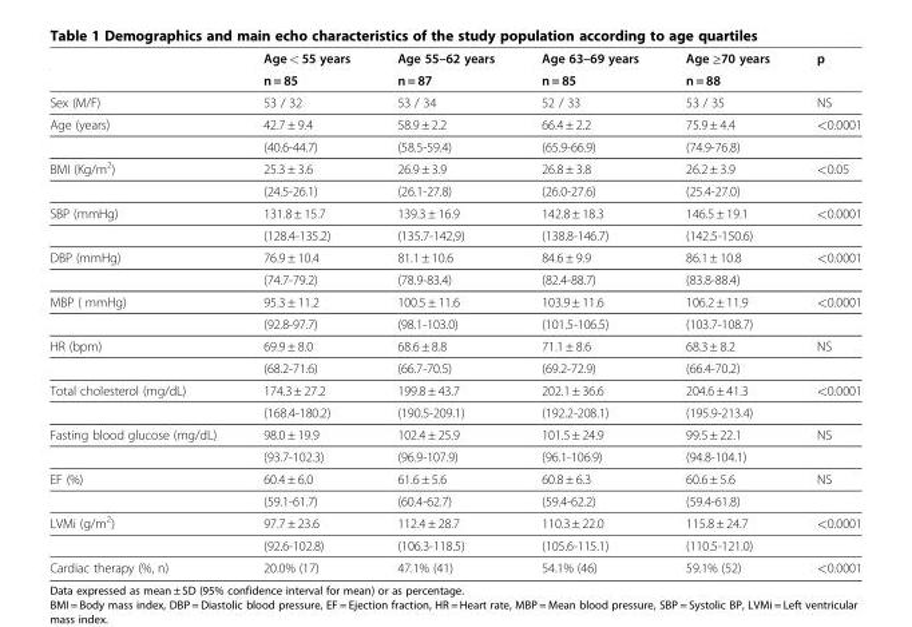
<table><thead><tr><td rowspan="2"></td><td rowspan="2">Age &lt; 55 years n = 85</td><td rowspan="2">Age 55–62 years n = 87</td><td rowspan="2">Age 63–69 years n = 85</td><td rowspan="2">Age ≥70 years n = 88</td><td rowspan="2">p</td></tr><tr></tr></thead><tbody><tr><td>Sex (M/F)</td><td>53 / 32</td><td>53 / 34</td><td>52 / 33</td><td>53 / 35</td><td>NS</td></tr><tr><td rowspan="2">Age (years)</td><td>42.7 ± 9.4</td><td>58.9 ± 2.2</td><td>66.4 ± 2.2</td><td>75.9 ± 4.4</td><td>&lt;0.0001</td></tr><tr><td>(40.6-44.7)</td><td>(58.5-59.4)</td><td>(65.9-66.9)</td><td>(74.9-76.8)</td><td></td></tr><tr><td rowspan="2">BMI (Kg/m<sup>2</sup>)</td><td>25.3 ± 3.6</td><td>26.9 ± 3.9</td><td>26.8 ± 3.8</td><td>26.2 ± 3.9</td><td>&lt;0.05</td></tr><tr><td>(24.5-26.1)</td><td>(26.1-27.8)</td><td>(26.0-27.6)</td><td>(25.4-27.0)</td><td></td></tr><tr><td rowspan="2">SBP (mmHg)</td><td>131.8 ± 15.7</td><td>139.3 ± 16.9</td><td>142.8 ± 18.3</td><td>146.5 ± 19.1</td><td>&lt;0.0001</td></tr><tr><td>(128.4-135.2)</td><td>(135.7-142,9)</td><td>(138.8-146.7)</td><td>(142.5-150.6)</td><td></td></tr><tr><td rowspan="2">DBP (mmHg)</td><td>76.9 ± 10.4</td><td>81.1 ± 10.6</td><td>84.6 ± 9.9</td><td>86.1 ± 10.8</td><td>&lt;0.0001</td></tr><tr><td>(74.7-79.2)</td><td>(78.9-83.4)</td><td>(82.4-88.7)</td><td>(83.8-88.4)</td><td></td></tr><tr><td rowspan="2">MBP ( mmHg)</td><td>95.3 ± 11.2</td><td>100.5 ± 11.6</td><td>103.9 ± 11.6</td><td>106.2 ± 11.9</td><td>&lt;0.0001</td></tr><tr><td>(92.8-97.7)</td><td>(98.1-103.0)</td><td>(101.5-106.5)</td><td>(103.7-108.7)</td><td></td></tr><tr><td rowspan="2">HR (bpm)</td><td>69.9 ± 8.0</td><td>68.6 ± 8.8</td><td>71.1 ± 8.6</td><td>68.3 ± 8.2</td><td>NS</td></tr><tr><td>(68.2-71.6)</td><td>(66.7-70.5)</td><td>(69.2-72.9)</td><td>(66.4-70.2)</td><td></td></tr><tr><td rowspan="2">Total cholesterol (mg/dL)</td><td>174.3 ± 27.2</td><td>199.8 ± 43.7</td><td>202.1 ± 36.6</td><td>204.6 ± 41.3</td><td>&lt;0.0001</td></tr><tr><td>(168.4-180.2)</td><td>(190.5-209.1)</td><td>(192.2-208.1)</td><td>(195.9-213.4)</td><td></td></tr><tr><td rowspan="2">Fasting blood glucose (mg/dL)</td><td>98.0 ± 19.9</td><td>102.4 ± 25.9</td><td>101.5 ± 24.9</td><td>99.5 ± 22.1</td><td>NS</td></tr><tr><td>(93.7-102.3)</td><td>(96.9-107.9)</td><td>(96.1-106.9)</td><td>(94.8-104.1)</td><td></td></tr><tr><td rowspan="2">EF (%)</td><td>60.4 ± 6.0</td><td>61.6 ± 5.6</td><td>60.8 ± 6.3</td><td>60.6 ± 5.6</td><td>NS</td></tr><tr><td>(59.1-61.7)</td><td>(60.4-62.7)</td><td>(59.4-62.2)</td><td>(59.4-61.8)</td><td></td></tr><tr><td rowspan="2">LVMi (g/m<sup>2</sup>)</td><td>97.7 ± 23.6</td><td>112.4 ± 28.7</td><td>110.3 ± 22.0</td><td>115.8 ± 24.7</td><td>&lt;0.0001</td></tr><tr><td>(92.6-102.8)</td><td>(106.3-118.5)</td><td>(105.6-115.1)</td><td>(110.5-121.0)</td><td></td></tr><tr><td>Cardiac therapy (%, n)</td><td>20.0% (17)</td><td>47.1% (41)</td><td>54.1% (46)</td><td>59.1% (52)</td><td>&lt;0.0001</td></tr></tbody></table>